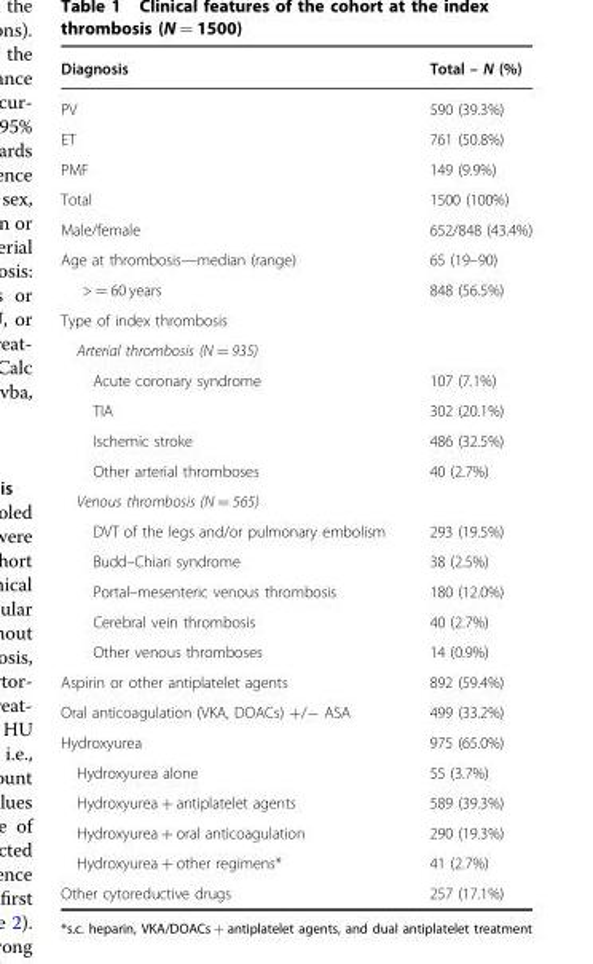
<table><thead><tr><td>Diagnosis</td><td>Total – N (%)</td></tr></thead><tbody><tr><td>PV</td><td>590 (39.3%)</td></tr><tr><td>ET</td><td>761 (50.8%)</td></tr><tr><td>PMF</td><td>149 (9.9%)</td></tr><tr><td>Total</td><td>1500 (100%)</td></tr><tr><td>Male/female</td><td>652/848 (43.4%)</td></tr><tr><td>Age at thrombosis—median (range)</td><td>65 (19–90)</td></tr><tr><td>&gt; = 60 years</td><td>848 (56.5%)</td></tr><tr><td colspan="2">Type of index thrombosis</td></tr><tr><td colspan="2">Arterial thrombosis (N = 935)</td></tr><tr><td>Acute coronary syndrome</td><td>107 (7.1%)</td></tr><tr><td>TIA</td><td>302 (20.1%)</td></tr><tr><td>Ischemic stroke</td><td>486 (32.5%)</td></tr><tr><td>Other arterial thromboses</td><td>40 (2.7%)</td></tr><tr><td colspan="2">Venous thrombosis (N = 565)</td></tr><tr><td>DVT of the legs and/or pulmonary embolism</td><td>293 (19.5%)</td></tr><tr><td>Budd–Chiari syndrome</td><td>38 (2.5%)</td></tr><tr><td>Portal–mesenteric venous thrombosis</td><td>180 (12.0%)</td></tr><tr><td>Cerebral vein thrombosis</td><td>40 (2.7%)</td></tr><tr><td>Other venous thromboses</td><td>14 (0.9%)</td></tr><tr><td>Aspirin or other antiplatelet agents</td><td>892 (59.4%)</td></tr><tr><td>Oral anticoagulation (VKA, DOACs) +/− ASA</td><td>499 (33.2%)</td></tr><tr><td>Hydroxyurea</td><td>975 (65.0%)</td></tr><tr><td>Hydroxyurea alone</td><td>55 (3.7%)</td></tr><tr><td>Hydroxyurea + antiplatelet agents</td><td>589 (39.3%)</td></tr><tr><td>Hydroxyurea + oral anticoagulation</td><td>290 (19.3%)</td></tr><tr><td>Hydroxyurea + other regimens*</td><td>41 (2.7%)</td></tr><tr><td>Other cytoreductive drugs</td><td>257 (17.1%)</td></tr></tbody></table>